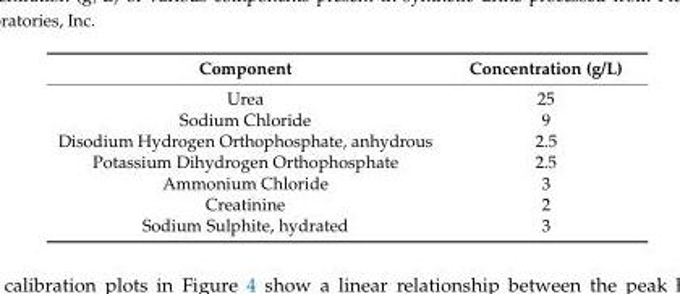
<table><thead><tr><td>Component</td><td>Concentration (g/L)</td></tr></thead><tbody><tr><td>Urea</td><td>25</td></tr><tr><td>Sodium Chloride</td><td>9</td></tr><tr><td>Disodium Hydrogen Orthophosphate, anhydrous</td><td>2.5</td></tr><tr><td>Potassium Dihydrogen Orthophosphate</td><td>2.5</td></tr><tr><td>Ammonium Chloride</td><td>3</td></tr><tr><td>Creatinine</td><td>2</td></tr><tr><td>Sodium Sulphite, hydrated</td><td>3</td></tr></tbody></table>